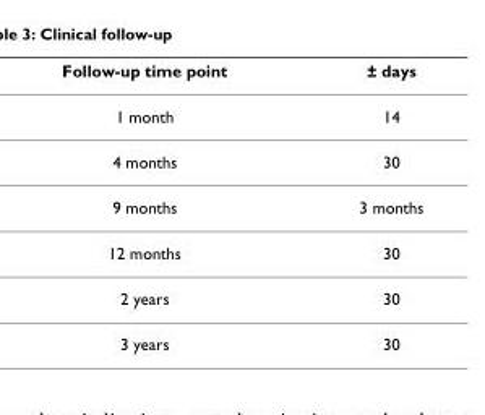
<table><thead><tr><td>Follow-up time point</td><td>± days</td></tr></thead><tbody><tr><td>1 month</td><td>14</td></tr><tr><td>4 months</td><td>30</td></tr><tr><td>9 months</td><td>3 months</td></tr><tr><td>12 months</td><td>30</td></tr><tr><td>2 years</td><td>30</td></tr><tr><td>3 years</td><td>30</td></tr></tbody></table>